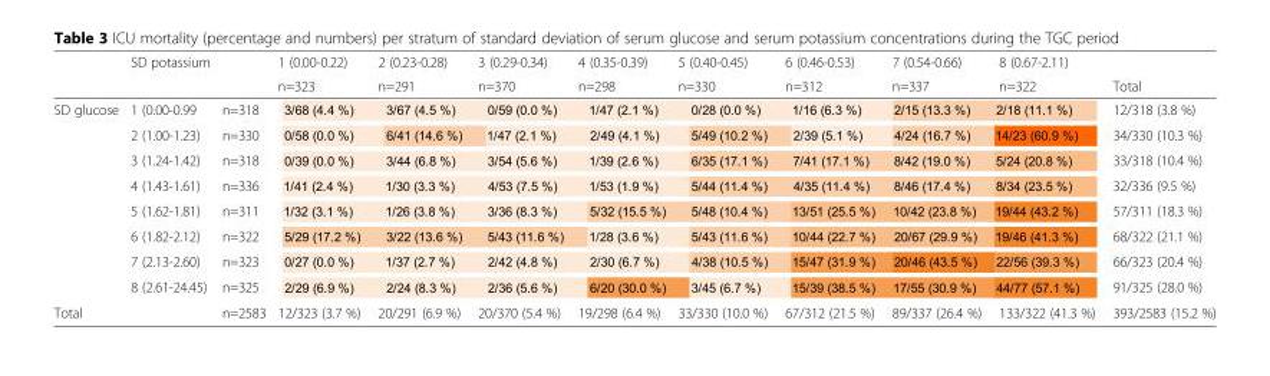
<table><thead><tr><td rowspan="2"></td><td rowspan="2">SD potassium</td><td rowspan="2"></td><td rowspan="2">1 (0.00-0.22) n=323</td><td rowspan="2">2 (0.23-0.28) n=291</td><td rowspan="2">3 (0.29-0.34) n=370</td><td rowspan="2">4 (0.35-0.39) n=298</td><td rowspan="2">5 (0.40-0.45) n=330</td><td rowspan="2">6 (0.46-0.53) n=312</td><td rowspan="2">7 (0.54-0.66) n=337</td><td rowspan="2">8 (0.67-2.11) n=322</td><td rowspan="2">Total</td></tr><tr></tr></thead><tbody><tr><td rowspan="8">SD glucose</td><td>1 (0.00-0.99</td><td>n=318</td><td rowspan="8" colspan="8"></td><td>12/318 (3.8 %)</td></tr><tr><td>2 (1.00-1.23)</td><td>n=330</td><td>34/330 (10.3 %)</td></tr><tr><td>3 (1.24-1.42)</td><td>n=318</td><td>33/318 (10.4 %)</td></tr><tr><td>4 (1.43-1.61)</td><td>n=336</td><td>32/336 (9.5 %)</td></tr><tr><td>5 (1.62-1.81)</td><td>n=311</td><td>57/311 (18.3 %)</td></tr><tr><td>6 (1.82-2.12)</td><td>n=322</td><td>68/322 (21.1 %)</td></tr><tr><td>7 (2.13-2.60)</td><td>n=323</td><td>66/323 (20.4 %)</td></tr><tr><td>8 (2.61-24.45)</td><td>n=325</td><td>91/325 (28.0 %)</td></tr><tr><td>Total</td><td></td><td>n=2583</td><td>12/323 (3.7 %)</td><td>20/291 (6.9 %)</td><td>20/370 (5.4 %)</td><td>19/298 (6.4 %)</td><td>33/330 (10.0 %)</td><td>67/312 (21.5 %)</td><td>89/337 (26.4 %)</td><td>133/322 (41.3 %)</td><td>393/2583 (15.2 %)</td></tr></tbody></table>